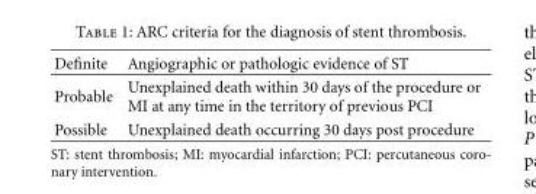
<table><thead><tr><td>Definite</td><td>Angiographic or pathologic evidence of ST</td></tr></thead><tbody><tr><td>Probable</td><td>Unexplained death within 30 days of the procedure or MI at any time in the territory of previous PCI</td></tr><tr><td>Possible</td><td>Unexplained death occurring 30 days post procedure</td></tr></tbody></table>